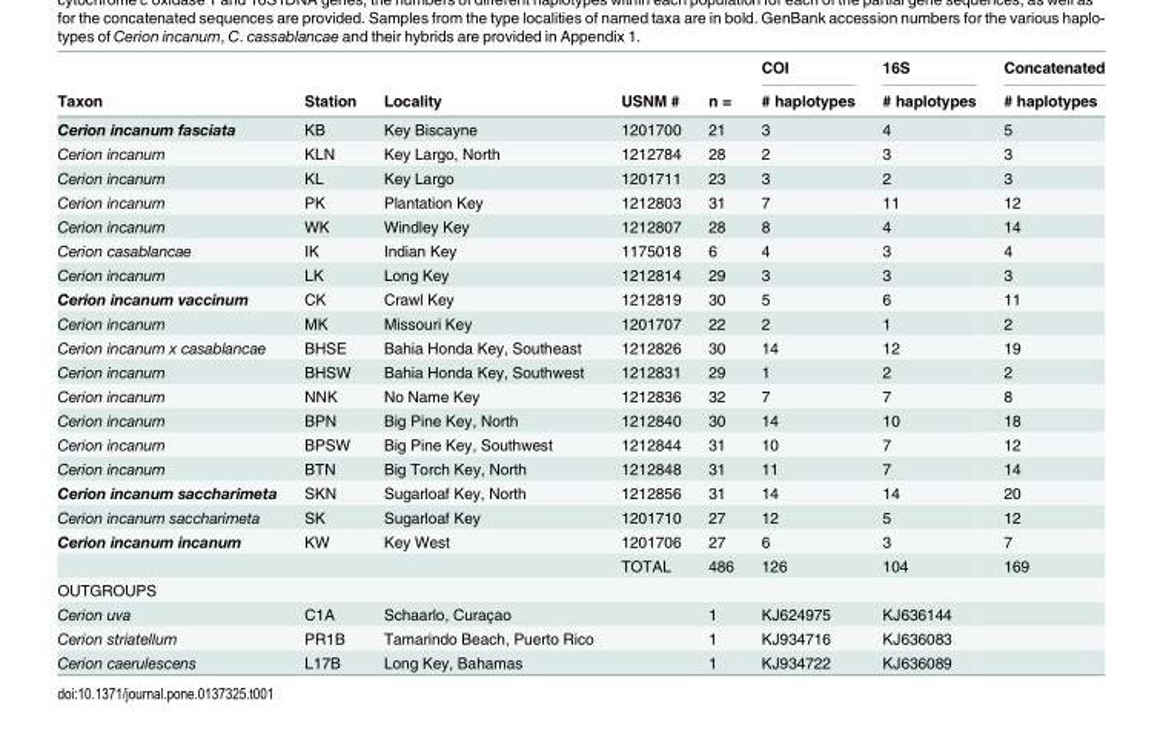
<table><thead><tr><td rowspan="2">Taxon</td><td rowspan="2">Station</td><td rowspan="2">Locality</td><td rowspan="2">USNM #</td><td rowspan="2">n =</td><td rowspan="2">COI # haplotypes</td><td rowspan="2">16S # haplotypes</td><td rowspan="2">Concatenated # haplotypes</td></tr><tr></tr></thead><tbody><tr><td>Cerion incanum fasciata</td><td>KB</td><td>Key Biscayne</td><td>1201700</td><td>21</td><td>3</td><td>4</td><td>5</td></tr><tr><td>Cerion incanum</td><td>KLN</td><td>Key Largo, North</td><td>1212784</td><td>28</td><td>2</td><td>3</td><td>3</td></tr><tr><td>Cerion incanum</td><td>KL</td><td>Key Largo</td><td>1201711</td><td>23</td><td>3</td><td>2</td><td>3</td></tr><tr><td>Cerion incanum</td><td>PK</td><td>Plantation Key</td><td>1212803</td><td>31</td><td>7</td><td>11</td><td>12</td></tr><tr><td>Cerion incanum</td><td>WK</td><td>Windley Key</td><td>1212807</td><td>28</td><td>8</td><td>4</td><td>14</td></tr><tr><td>Cerion casablancae</td><td>IK</td><td>Indian Key</td><td>1175018</td><td>6</td><td>4</td><td>3</td><td>4</td></tr><tr><td>Cerion incanum</td><td>LK</td><td>Long Key</td><td>1212814</td><td>29</td><td>3</td><td>3</td><td>3</td></tr><tr><td>Cerion incanum vaccinum</td><td>CK</td><td>Crawl Key</td><td>1212819</td><td>30</td><td>5</td><td>6</td><td>11</td></tr><tr><td>Cerion incanum</td><td>MK</td><td>Missouri Key</td><td>1201707</td><td>22</td><td>2</td><td>1</td><td>2</td></tr><tr><td>Cerion incanum x casablancae</td><td>BHSE</td><td>Bahia Honda Key, Southeast</td><td>1212826</td><td>30</td><td>14</td><td>12</td><td>19</td></tr><tr><td>Cerion incanum</td><td>BHSW</td><td>Bahia Honda Key, Southwest</td><td>1212831</td><td>29</td><td>1</td><td>2</td><td>2</td></tr><tr><td>Cerion incanum</td><td>NNK</td><td>No Name Key</td><td>1212836</td><td>32</td><td>7</td><td>7</td><td>8</td></tr><tr><td>Cerion incanum</td><td>BPN</td><td>Big Pine Key, North</td><td>1212840</td><td>30</td><td>14</td><td>10</td><td>18</td></tr><tr><td>Cerion incanum</td><td>BPSW</td><td>Big Pine Key, Southwest</td><td>1212844</td><td>31</td><td>10</td><td>7</td><td>12</td></tr><tr><td>Cerion incanum</td><td>BTN</td><td>Big Torch Key, North</td><td>1212848</td><td>31</td><td>11</td><td>7</td><td>14</td></tr><tr><td>Cerion incanum saccharimeta</td><td>SKN</td><td>Sugarloaf Key, North</td><td>1212856</td><td>31</td><td>14</td><td>14</td><td>20</td></tr><tr><td>Cerion incanum saccharimeta</td><td>SK</td><td>Sugarloaf Key</td><td>1201710</td><td>27</td><td>12</td><td>5</td><td>12</td></tr><tr><td rowspan="2">Cerion incanum incanum</td><td>KW</td><td>Key West</td><td>1201706</td><td>27</td><td>6</td><td>3</td><td>7</td></tr><tr><td></td><td></td><td>TOTAL</td><td>486</td><td>126</td><td>104</td><td>169</td></tr><tr><td colspan="8">OUTGROUPS</td></tr><tr><td>Cerion uva</td><td>C1A</td><td>Schaarlo, Curaçao</td><td></td><td>1</td><td>KJ624975</td><td>KJ636144</td><td></td></tr><tr><td>Cerion striatellum</td><td>PR1B</td><td>Tamarindo Beach, Puerto Rico</td><td></td><td>1</td><td>KJ934716</td><td>KJ636083</td><td></td></tr><tr><td>Cerion caerulescens</td><td>L17B</td><td>Long Key, Bahamas</td><td></td><td>1</td><td>KJ934722</td><td>KJ636089</td><td></td></tr></tbody></table>